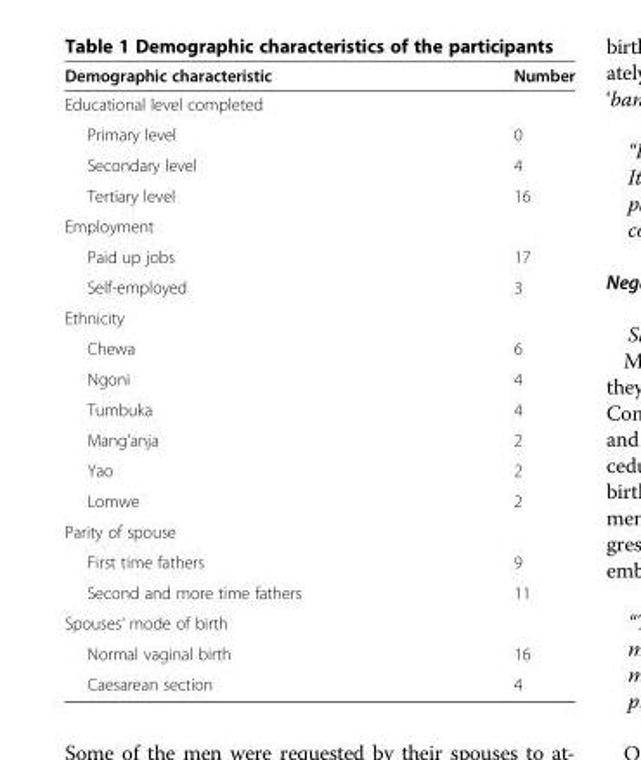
<table><thead><tr><td>Demographic characteristic</td><td>Number</td></tr></thead><tbody><tr><td colspan="2">Educational level completed</td></tr><tr><td>Primary level</td><td>0</td></tr><tr><td>Secondary level</td><td>4</td></tr><tr><td>Tertiary level</td><td>16</td></tr><tr><td colspan="2">Employment</td></tr><tr><td>Paid up jobs</td><td>17</td></tr><tr><td>Self-employed</td><td>3</td></tr><tr><td colspan="2">Ethnicity</td></tr><tr><td>Chewa</td><td>6</td></tr><tr><td>Ngoni</td><td>4</td></tr><tr><td>Tumbuka</td><td>4</td></tr><tr><td>Mang’anja</td><td>2</td></tr><tr><td>Yao</td><td>2</td></tr><tr><td>Lomwe</td><td>2</td></tr><tr><td colspan="2">Parity of spouse</td></tr><tr><td>First time fathers</td><td>9</td></tr><tr><td>Second and more time fathers</td><td>11</td></tr><tr><td colspan="2">Spouses’ mode of birth</td></tr><tr><td>Normal vaginal birth</td><td>16</td></tr><tr><td>Caesarean section</td><td>4</td></tr></tbody></table>